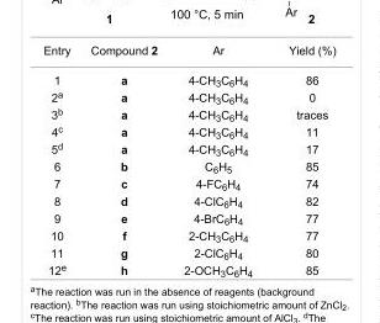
<table><tbody><tr><td>Entry</td><td>Compound 2</td><td>Ar</td><td>Yield (%)</td></tr><tr><td>1</td><td>a</td><td>4-CH<sub>3</sub>C<sub>6</sub>H<sub>4</sub></td><td>86</td></tr><tr><td>2<sup>a</sup></td><td>a</td><td>4-CH<sub>3</sub>C<sub>6</sub>H<sub>4</sub></td><td>0</td></tr><tr><td>3<sup>b</sup></td><td>a</td><td>4-CH<sub>3</sub>C<sub>6</sub>H<sub>4</sub></td><td>traces</td></tr><tr><td>4<sup>c</sup></td><td>a</td><td>4-CH<sub>3</sub>C<sub>6</sub>H<sub>4</sub></td><td>11</td></tr><tr><td>5<sup>d</sup></td><td>a</td><td>4-CH<sub>3</sub>C<sub>6</sub>H<sub>4</sub></td><td>17</td></tr><tr><td>6</td><td>b</td><td>C<sub>6</sub>H<sub>5</sub></td><td>85</td></tr><tr><td>7</td><td>c</td><td>4-FC<sub>6</sub>H<sub>4</sub></td><td>74</td></tr><tr><td>8</td><td>d</td><td>4-ClC<sub>6</sub>H<sub>4</sub></td><td>82</td></tr><tr><td>9</td><td>e</td><td>4-BrC<sub>6</sub>H<sub>4</sub></td><td>77</td></tr><tr><td>10</td><td>f</td><td>2-CH<sub>3</sub>C<sub>6</sub>H<sub>4</sub></td><td>77</td></tr><tr><td>11</td><td>g</td><td>2-ClC<sub>6</sub>H<sub>4</sub></td><td>80</td></tr><tr><td>12<sup>e</sup></td><td>h</td><td>2-OCH<sub>3</sub>C<sub>6</sub>H<sub>4</sub></td><td>85</td></tr></tbody></table>